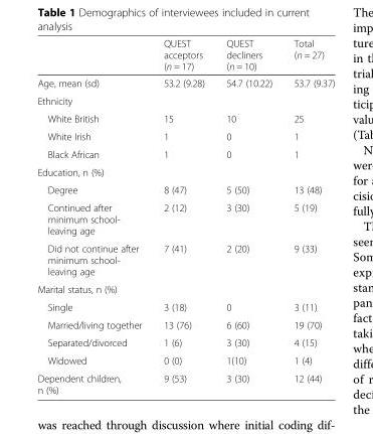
<table><thead><tr><td></td><td>QUEST acceptors (n = 17)</td><td>QUEST decliners (n = 10)</td><td>Total (n = 27)</td></tr></thead><tbody><tr><td>Age, mean (sd)</td><td>53.2 (9.28)</td><td>54.7 (10.22)</td><td>53.7 (9.37)</td></tr><tr><td colspan="4">Ethnicity</td></tr><tr><td>White British</td><td>15</td><td>10</td><td>25</td></tr><tr><td>White Irish</td><td>1</td><td>0</td><td>1</td></tr><tr><td>Black African</td><td>1</td><td>0</td><td>1</td></tr><tr><td colspan="4">Education, n (%)</td></tr><tr><td>Degree</td><td>8 (47)</td><td>5 (50)</td><td>13 (48)</td></tr><tr><td>Continued after minimum school- leaving age</td><td>2 (12)</td><td>3 (30)</td><td>5 (19)</td></tr><tr><td>Did not continue after minimum school- leaving age</td><td>7 (41)</td><td>2 (20)</td><td>9 (33)</td></tr><tr><td colspan="4">Marital status, n (%)</td></tr><tr><td>Single</td><td>3 (18)</td><td>0</td><td>3 (11)</td></tr><tr><td>Married/living together</td><td>13 (76)</td><td>6 (60)</td><td>19 (70)</td></tr><tr><td>Separated/divorced</td><td>1 (6)</td><td>3 (30)</td><td>4 (15)</td></tr><tr><td>Widowed</td><td>0 (0)</td><td>1(10)</td><td>1 (4)</td></tr><tr><td>Dependent children, n (%)</td><td>9 (53)</td><td>3 (30)</td><td>12 (44)</td></tr></tbody></table>